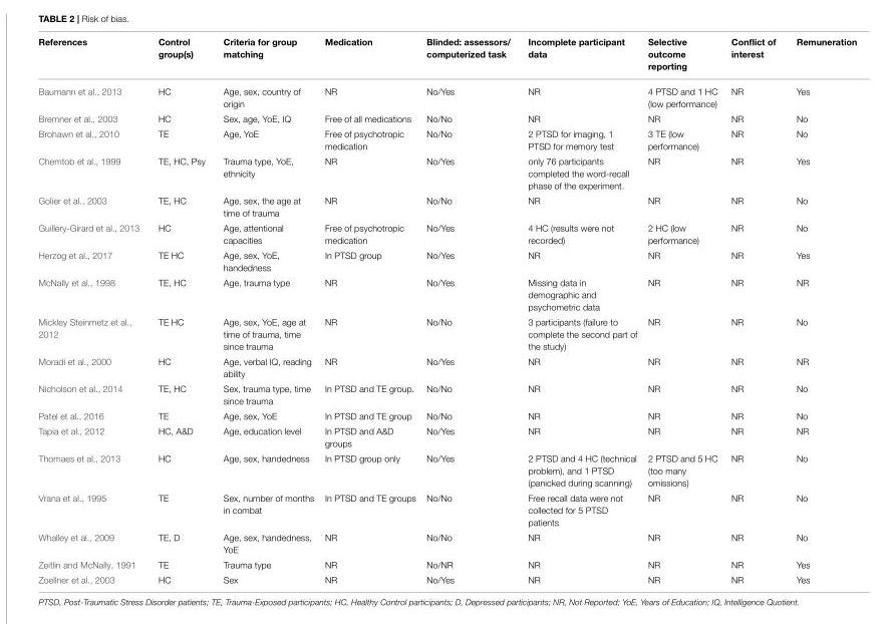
<table><thead><tr><td>References</td><td>Control group(s)</td><td>Criteria for group matching</td><td>Medication</td><td>Blinded: assessors/ computerized task</td><td>Incomplete participant data</td><td>Selective outcome reporting</td><td>Conflict of interest</td><td>Remuneration</td></tr></thead><tbody><tr><td>Baumann et al., 2013</td><td>HC</td><td>Age, sex, country of origin</td><td>NR</td><td>No/Yes</td><td>NR</td><td>4 PTSD and 1 HC (low performance)</td><td>NR</td><td>Yes</td></tr><tr><td>Bremner et al., 2003</td><td>HC</td><td>Sex, age, YoE, IQ</td><td>Free of all medications</td><td>No/No</td><td>NR</td><td>NR</td><td>NR</td><td>No</td></tr><tr><td>Brohawn et al., 2010</td><td>TE</td><td>Age, YoE</td><td>Free of psychotropic medication</td><td>No/No</td><td>2 PTSD for imaging, 1 PTSD for memory test</td><td>3 TE (low performance)</td><td>NR</td><td>No</td></tr><tr><td>Chemtob et al., 1999</td><td>TE, HC, Psy</td><td>Trauma type, YoE, ethnicity</td><td>NR</td><td>No/Yes</td><td>only 76 participants completed the word-recall phase of the experiment.</td><td>NR</td><td>NR</td><td>Yes</td></tr><tr><td>Golier et al., 2003</td><td>TE, HC</td><td>Age, sex, the age at time of trauma</td><td>NR</td><td>No/No</td><td>NR</td><td>NR</td><td>NR</td><td>No</td></tr><tr><td>Guillery-Girard et al., 2013</td><td>HC</td><td>Age, attentional capacities</td><td>Free of psychotropic medication</td><td>No/Yes</td><td>4 HC (results were not recorded)</td><td>2 HC (low performance)</td><td>NR</td><td>No</td></tr><tr><td>Herzog et al., 2017</td><td>TE HC</td><td>Age, sex, YoE, handedness</td><td>In PTSD group</td><td>No/Yes</td><td>NR</td><td>NR</td><td>NR</td><td>Yes</td></tr><tr><td>McNally et al., 1998</td><td>TE, HC</td><td>Age, trauma type</td><td>NR</td><td>No/Yes</td><td>Missing data in demographic and psychometric data</td><td>NR</td><td>NR</td><td>NR</td></tr><tr><td>Mickley Steinmetz et al., 2012</td><td>TE HC</td><td>Age, sex, YoE, age at time of trauma, time since trauma</td><td>NR</td><td>No/No</td><td>3 participants (failure to complete the second part of the study)</td><td>NR</td><td>NR</td><td>No</td></tr><tr><td>Moradi et al., 2000</td><td>HC</td><td>Age, verbal IQ, reading ability</td><td>NR</td><td>No/Yes</td><td>NR</td><td>NR</td><td>NR</td><td>NR</td></tr><tr><td>Nicholson et al., 2014</td><td>TE, HC</td><td>Sex, trauma type, time since trauma</td><td>In PTSD and TE group.</td><td>No/No</td><td>NR</td><td>NR</td><td>NR</td><td>No</td></tr><tr><td>Patel et al., 2016</td><td>TE</td><td>Age, sex, YoE</td><td>In PTSD and TE group</td><td>No/No</td><td>NR</td><td>NR</td><td>NR</td><td>No</td></tr><tr><td>Tapia et al., 2012</td><td>HC, A&amp;D</td><td>Age, education level</td><td>In PTSD and A&amp;D groups</td><td>No/Yes</td><td>NR</td><td>NR</td><td>NR</td><td>NR</td></tr><tr><td>Thomaes et al., 2013</td><td>HC</td><td>Age, sex, handedness</td><td>In PTSD group only</td><td>No/Yes</td><td>2 PTSD and 4 HC (technical problem), and 1 PTSD (panicked during scanning)</td><td>2 PTSD and 5 HC (too many omissions)</td><td>NR</td><td>No</td></tr><tr><td>Vrana et al., 1995</td><td>TE</td><td>Sex, number of months in combat</td><td>In PTSD and TE groups</td><td>No/No</td><td>Free recall data were not collected for 5 PTSD patients</td><td>NR</td><td>NR</td><td>No</td></tr><tr><td>Whalley et al., 2009</td><td>TE, D</td><td>Age, sex, handedness, YoE</td><td>NR</td><td>No/No</td><td>NR</td><td>NR</td><td>NR</td><td>No</td></tr><tr><td>Zeitlin and McNally, 1991</td><td>TE</td><td>Trauma type</td><td>NR</td><td>No/NR</td><td>NR</td><td>NR</td><td>NR</td><td>Yes</td></tr><tr><td>Zoellner et al., 2003</td><td>HC</td><td>Sex</td><td>NR</td><td>No/Yes</td><td>NR</td><td>NR</td><td>NR</td><td>Yes</td></tr></tbody></table>